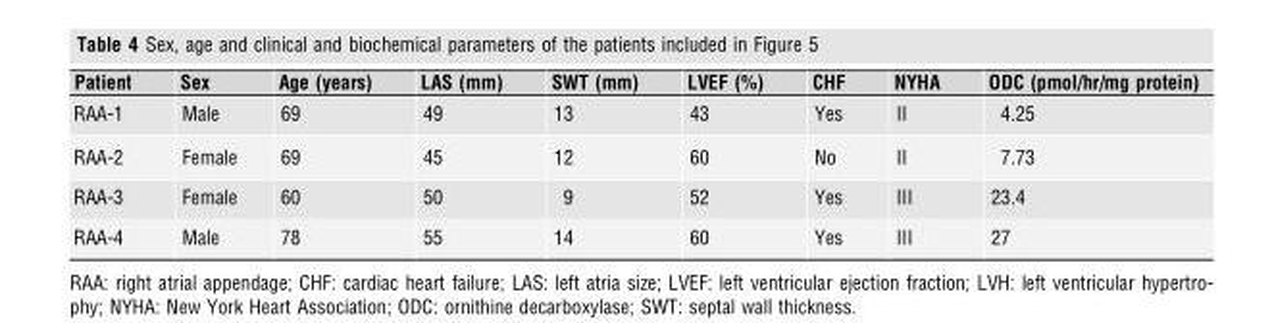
<table><thead><tr><td>Patient</td><td>Sex</td><td>Age (years)</td><td>LAS (mm)</td><td>SWT (mm)</td><td>LVEF (%)</td><td>CHF</td><td>NYHA</td><td>ODC (pmol/hr/mg protein)</td></tr></thead><tbody><tr><td>RAA-1</td><td>Male</td><td>69</td><td>49</td><td>13</td><td>43</td><td>Yes</td><td>II</td><td>4.25</td></tr><tr><td>RAA-2</td><td>Female</td><td>69</td><td>45</td><td>12</td><td>60</td><td>No</td><td>II</td><td>7.73</td></tr><tr><td>RAA-3</td><td>Female</td><td>60</td><td>50</td><td>9</td><td>52</td><td>Yes</td><td>III</td><td>23.4</td></tr><tr><td>RAA-4</td><td>Male</td><td>78</td><td>55</td><td>14</td><td>60</td><td>Yes</td><td>III</td><td>27</td></tr></tbody></table>